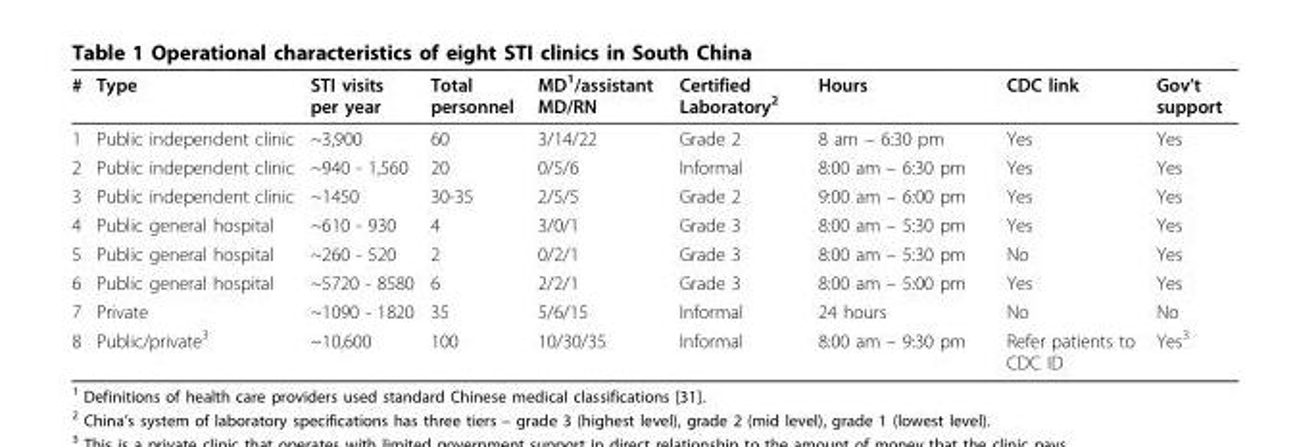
<table><thead><tr><td>#</td><td>Type</td><td>STI visits per year</td><td>Total personnel</td><td>MD<sup>1</sup>/assistant MD/RN</td><td>Certified Laboratory<sup>2</sup></td><td>Hours</td><td>CDC link</td><td>Gov’t support</td></tr></thead><tbody><tr><td>1</td><td>Public independent clinic</td><td>~3,900</td><td>60</td><td>3/14/22</td><td>Grade 2</td><td>8 am – 6:30 pm</td><td>Yes</td><td>Yes</td></tr><tr><td>2</td><td>Public independent clinic</td><td>~940 - 1,560</td><td>20</td><td>0/5/6</td><td>Informal</td><td>8:00 am – 6:30 pm</td><td>Yes</td><td>Yes</td></tr><tr><td>3</td><td>Public independent clinic</td><td>~1450</td><td>30-35</td><td>2/5/5</td><td>Grade 2</td><td>9:00 am – 6:00 pm</td><td>Yes</td><td>Yes</td></tr><tr><td>4</td><td>Public general hospital</td><td>~610 - 930</td><td>4</td><td>3/0/1</td><td>Grade 3</td><td>8:00 am – 5:30 pm</td><td>Yes</td><td>Yes</td></tr><tr><td>5</td><td>Public general hospital</td><td>~260 - 520</td><td>2</td><td>0/2/1</td><td>Grade 3</td><td>8:00 am – 5:30 pm</td><td>No</td><td>Yes</td></tr><tr><td>6</td><td>Public general hospital</td><td>~5720 - 8580</td><td>6</td><td>2/2/1</td><td>Grade 3</td><td>8:00 am – 5:00 pm</td><td>Yes</td><td>Yes</td></tr><tr><td>7</td><td>Private</td><td>~1090 - 1820</td><td>35</td><td>5/6/15</td><td>Informal</td><td>24 hours</td><td>No</td><td>No</td></tr><tr><td>8</td><td>Public/private<sup>3</sup></td><td>~10,600</td><td>100</td><td>10/30/35</td><td>Informal</td><td>8:00 am – 9:30 pm</td><td>Refer patients to CDC ID</td><td>Yes<sup>3</sup></td></tr></tbody></table>